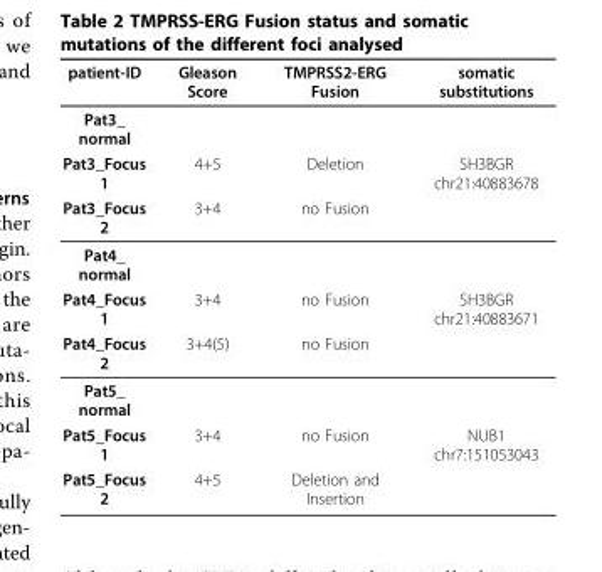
<table><thead><tr><td>patient-ID</td><td>Gleason Score</td><td>TMPRSS2-ERG Fusion</td><td>somatic substitutions</td></tr></thead><tbody><tr><td colspan="4">Pat3_ normal</td></tr><tr><td>Pat3_Focus 1</td><td>4+5</td><td>Deletion</td><td>SH3BGR chr21:40883678</td></tr><tr><td>Pat3_Focus 2</td><td>3+4</td><td>no Fusion</td><td></td></tr><tr><td colspan="4">Pat4_ normal</td></tr><tr><td>Pat4_Focus 1</td><td>3+4</td><td>no Fusion</td><td>SH3BGR chr21:40883671</td></tr><tr><td>Pat4_Focus 2</td><td>3+4(5)</td><td>no Fusion</td><td></td></tr><tr><td colspan="4">Pat5_ normal</td></tr><tr><td>Pat5_Focus 1</td><td>3+4</td><td>no Fusion</td><td>NUB1 chr7:151053043</td></tr><tr><td>Pat5_Focus 2</td><td>4+5</td><td>Deletion and Insertion</td><td></td></tr></tbody></table>